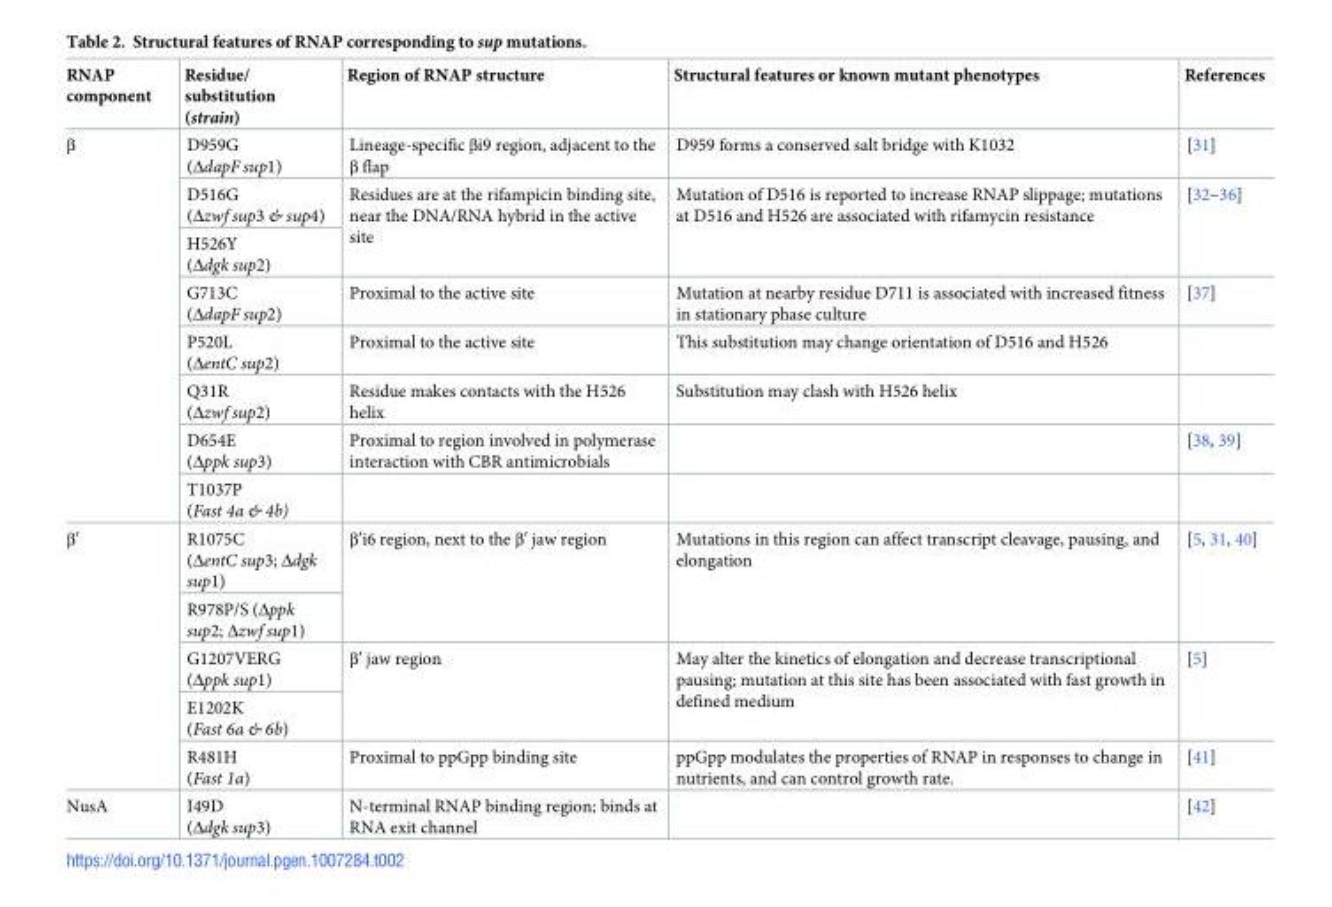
<table><thead><tr><td>RNAP component</td><td>Residue/ substitution (strain)</td><td>Region of RNAP structure</td><td>Structural features or known mutant phenotypes</td><td>References</td></tr></thead><tbody><tr><td rowspan="8">β</td><td>D959G (ΔdapF sup1)</td><td>Lineage-specific βi9 region, adjacent to the β flap</td><td>D959 forms a conserved salt bridge with K1032</td><td>[31]</td></tr><tr><td>D516G (Δzwf sup3 &amp; sup4)</td><td rowspan="2">Residues are at the rifampicin binding site, near the DNA/RNA hybrid in the active site</td><td rowspan="2">Mutation of D516 is reported to increase RNAP slippage; mutations at D516 and H526 are associated with rifamycin resistance</td><td rowspan="2">[32–36]</td></tr><tr><td>H526Y (Δdgk sup2)</td></tr><tr><td>G713C (ΔdapF sup2)</td><td>Proximal to the active site</td><td>Mutation at nearby residue D711 is associated with increased fitness in stationary phase culture</td><td>[37]</td></tr><tr><td>P520L (ΔentC sup2)</td><td>Proximal to the active site</td><td>This substitution may change orientation of D516 and H526</td><td></td></tr><tr><td>Q31R (Δzwf sup2)</td><td>Residue makes contacts with the H526 helix</td><td>Substitution may clash with H526 helix</td><td></td></tr><tr><td>D654E (Δppk sup3)</td><td>Proximal to region involved in polymerase interaction with CBR antimicrobials</td><td></td><td>[38, 39]</td></tr><tr><td>T1037P (Fast 4a &amp; 4b)</td><td></td><td></td><td></td></tr><tr><td rowspan="5">βʹ</td><td>R1075C (ΔentC sup3; Δdgk sup1)</td><td rowspan="2">βʹi6 region, next to the βʹ jaw region</td><td rowspan="2">Mutations in this region can affect transcript cleavage, pausing, and elongation</td><td rowspan="2">[5, 31, 40]</td></tr><tr><td>R978P/S (Δppk sup2; Δzwf sup1)</td></tr><tr><td>G1207VERG (Δppk sup1)</td><td rowspan="2">βʹ jaw region</td><td rowspan="2">May alter the kinetics of elongation and decrease transcriptional pausing; mutation at this site has been associated with fast growth in defined medium</td><td rowspan="2">[5]</td></tr><tr><td>E1202K (Fast 6a &amp; 6b)</td></tr><tr><td>R481H (Fast 1a)</td><td>Proximal to ppGpp binding site</td><td>ppGpp modulates the properties of RNAP in responses to change in nutrients, and can control growth rate.</td><td>[41]</td></tr><tr><td>NusA</td><td>I49D (Δdgk sup3)</td><td>N-terminal RNAP binding region; binds at RNA exit channel</td><td></td><td>[42]</td></tr></tbody></table>